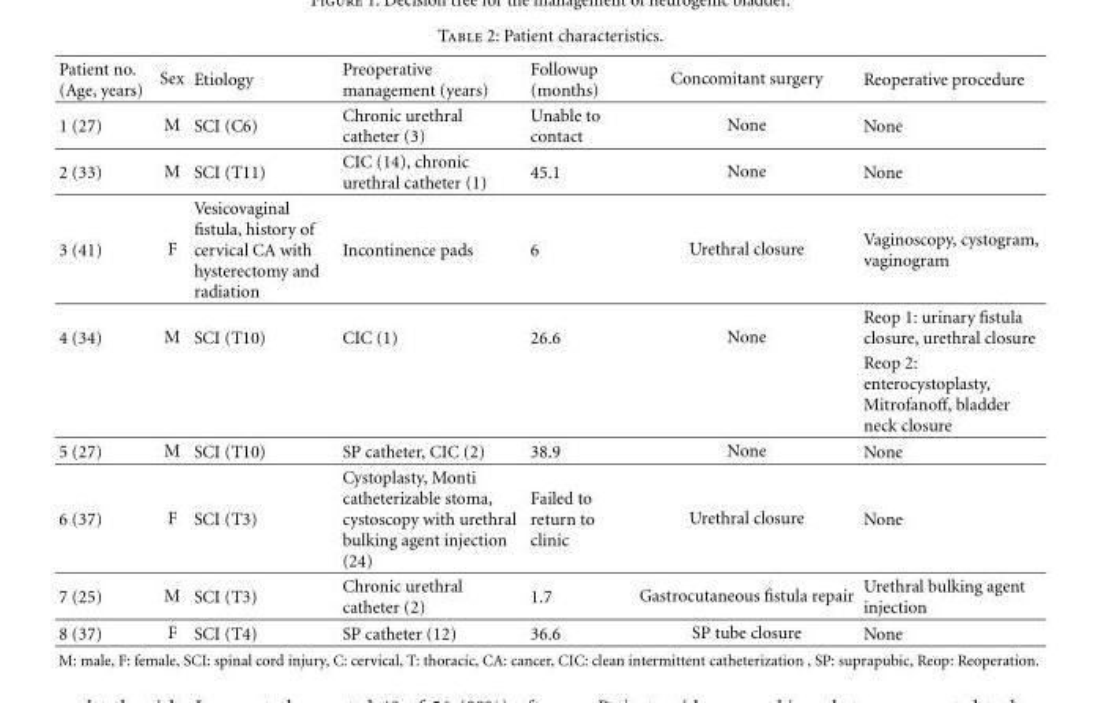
<table><thead><tr><td>Patient no. (Age, years)</td><td>Sex</td><td>Etiology</td><td>Preoperative management (years)</td><td>Followup (months)</td><td>Concomitant surgery</td><td>Reoperative procedure</td></tr></thead><tbody><tr><td>1 (27)</td><td>M</td><td>SCI (C6)</td><td>Chronic urethral catheter (3)</td><td>Unable to contact</td><td>None</td><td>None</td></tr><tr><td>2 (33)</td><td>M</td><td>SCI (T11)</td><td>CIC (14), chronic urethral catheter (1)</td><td>45.1</td><td>None</td><td>None</td></tr><tr><td>3 (41)</td><td>F</td><td>Vesicovaginal fistula, history of cervical CA with hysterectomy and radiation</td><td>Incontinence pads</td><td>6</td><td>Urethral closure</td><td>Vaginoscopy, cystogram, vaginogram</td></tr><tr><td rowspan="2">4 (34)</td><td rowspan="2">M</td><td rowspan="2">SCI (T10)</td><td rowspan="2">CIC (1)</td><td rowspan="2">26.6</td><td rowspan="2">None</td><td>Reop 1: urinary fistula closure, urethral closure</td></tr><tr><td>Reop 2: enterocystoplasty, Mitrofanoff, bladder neck closure</td></tr><tr><td>5 (27)</td><td>M</td><td>SCI (T10)</td><td>SP catheter, CIC (2)</td><td>38.9</td><td>None</td><td>None</td></tr><tr><td>6 (37)</td><td>F</td><td>SCI (T3)</td><td>Cystoplasty, Monti catheterizable stoma, cystoscopy with urethral bulking agent injection (24)</td><td>Failed to return to clinic</td><td>Urethral closure</td><td>None</td></tr><tr><td>7 (25)</td><td>M</td><td>SCI (T3)</td><td>Chronic urethral catheter (2)</td><td>1.7</td><td>Gastrocutaneous fistula repair</td><td>Urethral bulking agent injection</td></tr><tr><td>8 (37)</td><td>F</td><td>SCI (T4)</td><td>SP catheter (12)</td><td>36.6</td><td>SP tube closure</td><td>None</td></tr></tbody></table>